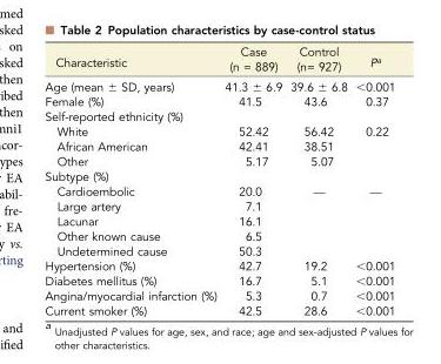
<table><thead><tr><td>Characteristic</td><td>Case (n = 889)</td><td>Control (n= 927)</td><td>P<sup>a</sup></td></tr></thead><tbody><tr><td>Age (mean ± SD, years)</td><td>41.3 ± 6.9</td><td>39.6 ± 6.8</td><td>&lt;0.001</td></tr><tr><td>Female (%)</td><td>41.5</td><td>43.6</td><td>0.37</td></tr><tr><td colspan="4">Self-reported ethnicity (%)</td></tr><tr><td>White</td><td>52.42</td><td>56.42</td><td>0.22</td></tr><tr><td>African American</td><td>42.41</td><td>38.51</td><td></td></tr><tr><td>Other</td><td>5.17</td><td>5.07</td><td></td></tr><tr><td colspan="4">Subtype (%)</td></tr><tr><td>Cardioembolic</td><td>20.0</td><td>—</td><td>—</td></tr><tr><td>Large artery</td><td>7.1</td><td></td><td></td></tr><tr><td>Lacunar</td><td>16.1</td><td></td><td></td></tr><tr><td>Other known cause</td><td>6.5</td><td></td><td></td></tr><tr><td>Undetermined cause</td><td>50.3</td><td></td><td></td></tr><tr><td>Hypertension (%)</td><td>42.7</td><td>19.2</td><td>&lt;0.001</td></tr><tr><td>Diabetes mellitus (%)</td><td>16.7</td><td>5.1</td><td>&lt;0.001</td></tr><tr><td>Angina/myocardial infarction (%)</td><td>5.3</td><td>0.7</td><td>&lt;0.001</td></tr><tr><td>Current smoker (%)</td><td>42.5</td><td>28.6</td><td>&lt;0.001</td></tr></tbody></table>